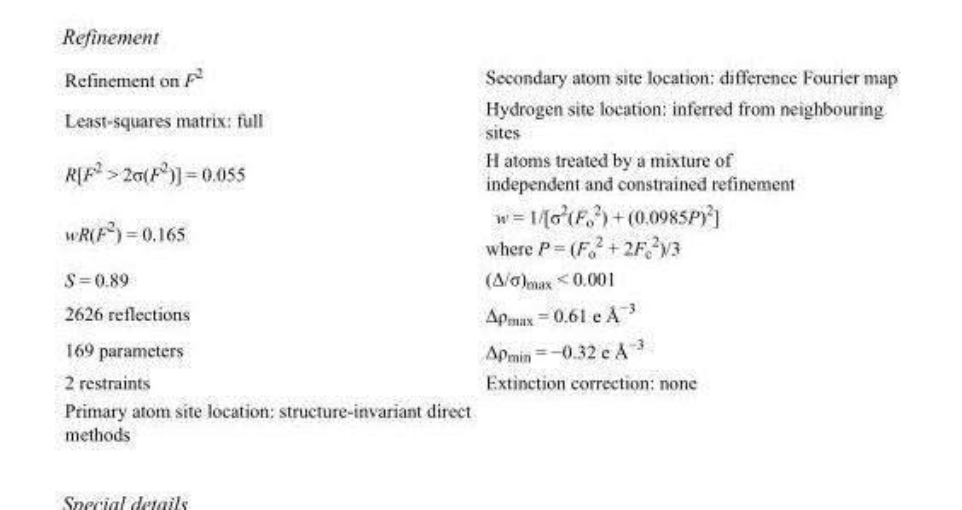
<table><tbody><tr><td>Refinement on F<sup>2</sup></td><td>Secondary atom site location: difference Fourier map</td></tr><tr><td>Least-squares matrix: full</td><td>Hydrogen site location: inferred from neighbouring sites</td></tr><tr><td>R[F<sup>2</sup> &gt; 2σ(F<sup>2</sup>)] = 0.055</td><td>H atoms treated by a mixture of independent and constrained refinement</td></tr><tr><td>wR(F<sup>2</sup>) = 0.165</td><td>w = 1/[σ<sup>2</sup>(F<sub>o</sub> <sup>2</sup>) + (0.0985P)<sup>2</sup>] where P = (F<sub>o</sub> <sup>2</sup> + 2F<sub>c</sub> <sup>2</sup>)/3</td></tr><tr><td>S = 0.89</td><td>(Δ/σ)<sub>max</sub> &lt; 0.001</td></tr><tr><td>2626 reflections</td><td>Δρ<sub>max</sub> = 0.61 e Å<sup>−3</sup></td></tr><tr><td>169 parameters</td><td>Δρ<sub>min</sub> = −0.32 e Å<sup>−3</sup></td></tr><tr><td>2 restraints</td><td>Extinction correction: none</td></tr><tr><td>Primary atom site location: structure-invariant direct methods</td><td></td></tr></tbody></table>